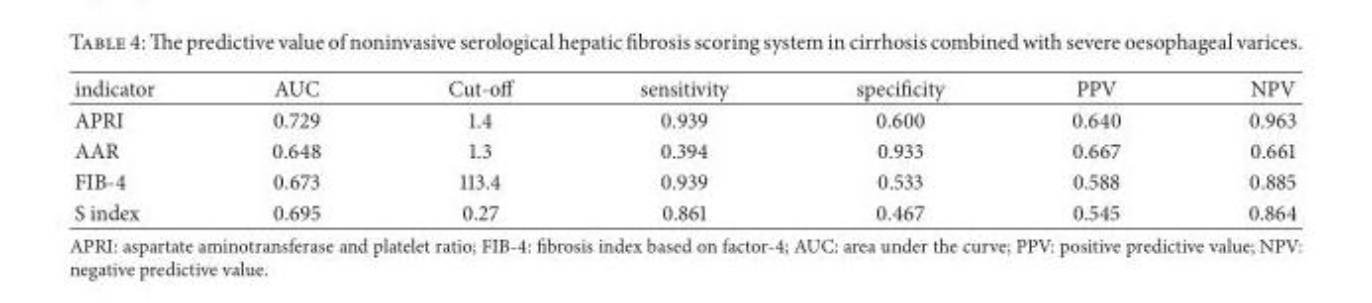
<table><thead><tr><td>indicator</td><td>AUC</td><td>Cut-off</td><td>sensitivity</td><td>specificity</td><td>PPV</td><td>NPV</td></tr></thead><tbody><tr><td>APRI</td><td>0.729</td><td>1.4</td><td>0.939</td><td>0.600</td><td>0.640</td><td>0.963</td></tr><tr><td>AAR</td><td>0.648</td><td>1.3</td><td>0.394</td><td>0.933</td><td>0.667</td><td>0.661</td></tr><tr><td>FIB-4</td><td>0.673</td><td>113.4</td><td>0.939</td><td>0.533</td><td>0.588</td><td>0.885</td></tr><tr><td>S index</td><td>0.695</td><td>0.27</td><td>0.861</td><td>0.467</td><td>0.545</td><td>0.864</td></tr></tbody></table>